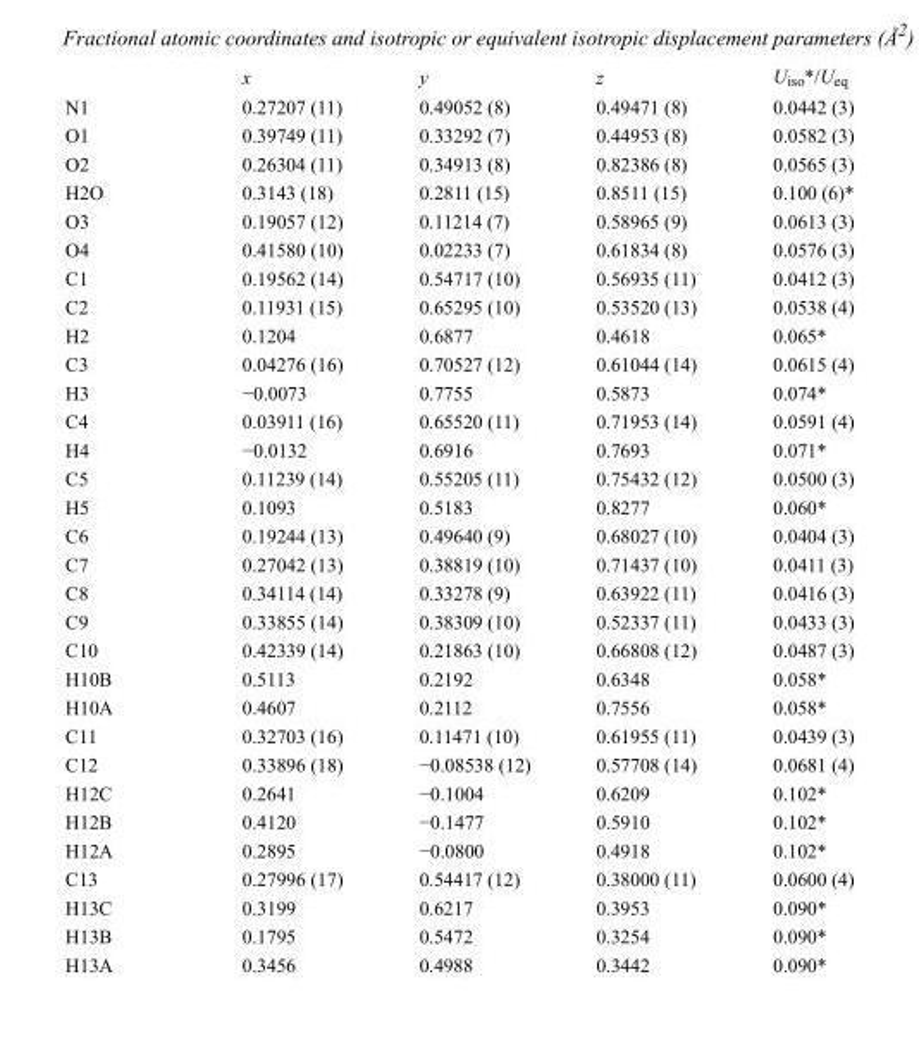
<table><thead><tr><td></td><td>x</td><td>y</td><td>z</td><td>U<sub>iso</sub>*/U<sub>eq</sub></td></tr></thead><tbody><tr><td>N1</td><td>0.27207 (11)</td><td>0.49052 (8)</td><td>0.49471 (8)</td><td>0.0442 (3)</td></tr><tr><td>O1</td><td>0.39749 (11)</td><td>0.33292 (7)</td><td>0.44953 (8)</td><td>0.0582 (3)</td></tr><tr><td>O2</td><td>0.26304 (11)</td><td>0.34913 (8)</td><td>0.82386 (8)</td><td>0.0565 (3)</td></tr><tr><td>H2O</td><td>0.3143 (18)</td><td>0.2811 (15)</td><td>0.8511 (15)</td><td>0.100 (6)*</td></tr><tr><td>O3</td><td>0.19057 (12)</td><td>0.11214 (7)</td><td>0.58965 (9)</td><td>0.0613 (3)</td></tr><tr><td>O4</td><td>0.41580 (10)</td><td>0.02233 (7)</td><td>0.61834 (8)</td><td>0.0576 (3)</td></tr><tr><td>C1</td><td>0.19562 (14)</td><td>0.54717 (10)</td><td>0.56935 (11)</td><td>0.0412 (3)</td></tr><tr><td>C2</td><td>0.11931 (15)</td><td>0.65295 (10)</td><td>0.53520 (13)</td><td>0.0538 (4)</td></tr><tr><td>H2</td><td>0.1204</td><td>0.6877</td><td>0.4618</td><td>0.065*</td></tr><tr><td>C3</td><td>0.04276 (16)</td><td>0.70527 (12)</td><td>0.61044 (14)</td><td>0.0615 (4)</td></tr><tr><td>H3</td><td>−0.0073</td><td>0.7755</td><td>0.5873</td><td>0.074*</td></tr><tr><td>C4</td><td>0.03911 (16)</td><td>0.65520 (11)</td><td>0.71953 (14)</td><td>0.0591 (4)</td></tr><tr><td>H4</td><td>−0.0132</td><td>0.6916</td><td>0.7693</td><td>0.071*</td></tr><tr><td>C5</td><td>0.11239 (14)</td><td>0.55205 (11)</td><td>0.75432 (12)</td><td>0.0500 (3)</td></tr><tr><td>H5</td><td>0.1093</td><td>0.5183</td><td>0.8277</td><td>0.060*</td></tr><tr><td>C6</td><td>0.19244 (13)</td><td>0.49640 (9)</td><td>0.68027 (10)</td><td>0.0404 (3)</td></tr><tr><td>C7</td><td>0.27042 (13)</td><td>0.38819 (10)</td><td>0.71437 (10)</td><td>0.0411 (3)</td></tr><tr><td>C8</td><td>0.34114 (14)</td><td>0.33278 (9)</td><td>0.63922 (11)</td><td>0.0416 (3)</td></tr><tr><td>C9</td><td>0.33855 (14)</td><td>0.38309 (10)</td><td>0.52337 (11)</td><td>0.0433 (3)</td></tr><tr><td>C10</td><td>0.42339 (14)</td><td>0.21863 (10)</td><td>0.66808 (12)</td><td>0.0487 (3)</td></tr><tr><td>H10B</td><td>0.5113</td><td>0.2192</td><td>0.6348</td><td>0.058*</td></tr><tr><td>H10A</td><td>0.4607</td><td>0.2112</td><td>0.7556</td><td>0.058*</td></tr><tr><td>C11</td><td>0.32703 (16)</td><td>0.11471 (10)</td><td>0.61955 (11)</td><td>0.0439 (3)</td></tr><tr><td>C12</td><td>0.33896 (18)</td><td>−0.08538 (12)</td><td>0.57708 (14)</td><td>0.0681 (4)</td></tr><tr><td>H12C</td><td>0.2641</td><td>−0.1004</td><td>0.6209</td><td>0.102*</td></tr><tr><td>H12B</td><td>0.4120</td><td>−0.1477</td><td>0.5910</td><td>0.102*</td></tr><tr><td>H12A</td><td>0.2895</td><td>−0.0800</td><td>0.4918</td><td>0.102*</td></tr><tr><td>C13</td><td>0.27996 (17)</td><td>0.54417 (12)</td><td>0.38000 (11)</td><td>0.0600 (4)</td></tr><tr><td>H13C</td><td>0.3199</td><td>0.6217</td><td>0.3953</td><td>0.090*</td></tr><tr><td>H13B</td><td>0.1795</td><td>0.5472</td><td>0.3254</td><td>0.090*</td></tr><tr><td>H13A</td><td>0.3456</td><td>0.4988</td><td>0.3442</td><td>0.090*</td></tr></tbody></table>